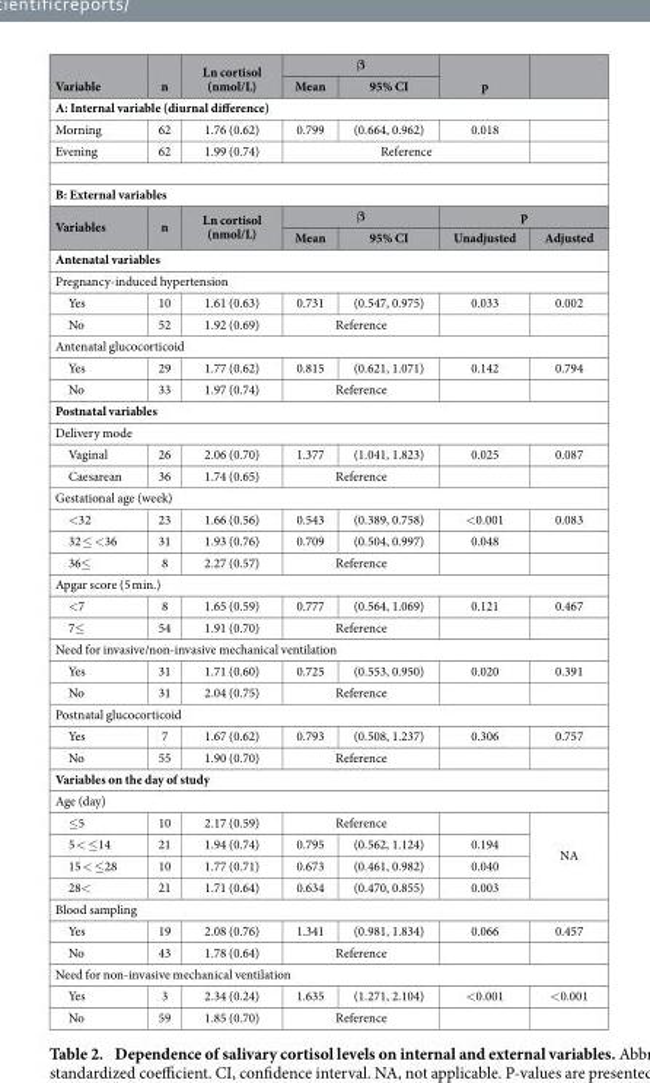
<table><thead><tr><td rowspan="2">Variable</td><td rowspan="2">n</td><td rowspan="2">Ln cortisol (nmol/L)</td><td colspan="2">β</td><td rowspan="2">p</td><td rowspan="2"></td></tr><tr><td>Mean</td><td>95% CI</td></tr></thead><tbody><tr><td colspan="7">A: Internal variable (diurnal difference)</td></tr><tr><td>Morning</td><td>62</td><td>1.76 (0.62)</td><td>0.799</td><td>(0.664, 0.962)</td><td>0.018</td><td></td></tr><tr><td>Evening</td><td>62</td><td>1.99 (0.74)</td><td colspan="3">Reference</td><td></td></tr><tr><td colspan="7">B: External variables</td></tr><tr><td rowspan="2">Variables</td><td rowspan="2">n</td><td rowspan="2">Ln cortisol (nmol/L)</td><td colspan="2">β</td><td colspan="2">p</td></tr><tr><td>Mean</td><td>95% CI</td><td>Unadjusted</td><td>Adjusted</td></tr><tr><td colspan="7">Antenatal variables</td></tr><tr><td colspan="7">Pregnancy-induced hypertension</td></tr><tr><td>Yes</td><td>10</td><td>1.61 (0.63)</td><td>0.731</td><td>(0.547, 0.975)</td><td>0.033</td><td>0.002</td></tr><tr><td>No</td><td>52</td><td>1.92 (0.69)</td><td colspan="2">Reference</td><td></td><td></td></tr><tr><td colspan="7">Antenatal glucocorticoid</td></tr><tr><td>Yes</td><td>29</td><td>1.77 (0.62)</td><td>0.815</td><td>(0.621, 1.071)</td><td>0.142</td><td>0.794</td></tr><tr><td>No</td><td>33</td><td>1.97 (0.74)</td><td colspan="2">Reference</td><td></td><td></td></tr><tr><td colspan="7">Postnatal variables</td></tr><tr><td colspan="7">Delivery mode</td></tr><tr><td>Vaginal</td><td>26</td><td>2.06 (0.70)</td><td>1.377</td><td>(1.041, 1.823)</td><td>0.025</td><td>0.087</td></tr><tr><td>Caesarean</td><td>36</td><td>1.74 (0.65)</td><td colspan="2">Reference</td><td></td><td></td></tr><tr><td colspan="7">Gestational age (week)</td></tr><tr><td>&lt; 32</td><td>23</td><td>1.66 (0.56)</td><td>0.543</td><td>(0.389, 0.758)</td><td>&lt; 0.001</td><td>0.083</td></tr><tr><td>32 ≤ &lt; 36</td><td>31</td><td>1.93 (0.76)</td><td>0.709</td><td>(0.504, 0.997)</td><td>0.048</td><td></td></tr><tr><td>36≤</td><td>8</td><td>2.27 (0.57)</td><td colspan="2">Reference</td><td></td><td></td></tr><tr><td colspan="7">Apgar score (5 min.)</td></tr><tr><td>&lt; 7</td><td>8</td><td>1.65 (0.59)</td><td>0.777</td><td>(0.564, 1.069)</td><td>0.121</td><td>0.467</td></tr><tr><td>7≤</td><td>54</td><td>1.91 (0.70)</td><td colspan="2">Reference</td><td></td><td></td></tr><tr><td colspan="7">Need for invasive/non-invasive mechanical ventilation</td></tr><tr><td>Yes</td><td>31</td><td>1.71 (0.60)</td><td>0.725</td><td>(0.553, 0.950)</td><td>0.020</td><td>0.391</td></tr><tr><td>No</td><td>31</td><td>2.04 (0.75)</td><td colspan="2">Reference</td><td></td><td></td></tr><tr><td colspan="7">Postnatal glucocorticoid</td></tr><tr><td>Yes</td><td>7</td><td>1.67 (0.62)</td><td>0.793</td><td>(0.508, 1.237)</td><td>0.306</td><td>0.757</td></tr><tr><td>No</td><td>55</td><td>1.90 (0.70)</td><td colspan="2">Reference</td><td></td><td></td></tr><tr><td colspan="7">Variables on the day of study</td></tr><tr><td colspan="7">Age (day)</td></tr><tr><td>≤ 5</td><td>10</td><td>2.17 (0.59)</td><td colspan="2">Reference</td><td></td><td rowspan="4">NA</td></tr><tr><td>5 &lt; ≤ 14</td><td>21</td><td>1.94 (0.74)</td><td>0.795</td><td>(0.562, 1.124)</td><td>0.194</td></tr><tr><td>15 &lt; ≤ 28</td><td>10</td><td>1.77 (0.71)</td><td>0.673</td><td>(0.461, 0.982)</td><td>0.040</td></tr><tr><td>28&lt;</td><td>21</td><td>1.71 (0.64)</td><td>0.634</td><td>(0.470, 0.855)</td><td>0.003</td></tr><tr><td colspan="7">Blood sampling</td></tr><tr><td>Yes</td><td>19</td><td>2.08 (0.76)</td><td>1.341</td><td>(0.981, 1.834)</td><td>0.066</td><td>0.457</td></tr><tr><td>No</td><td>43</td><td>1.78 (0.64)</td><td colspan="2">Reference</td><td></td><td></td></tr><tr><td colspan="7">Need for non-invasive mechanical ventilation</td></tr><tr><td>Yes</td><td>3</td><td>2.34 (0.24)</td><td>1.635</td><td>(1.271, 2.104)</td><td>&lt; 0.001</td><td>&lt; 0.001</td></tr><tr><td>No</td><td>59</td><td>1.85 (0.70)</td><td colspan="2">Reference</td><td></td><td></td></tr></tbody></table>